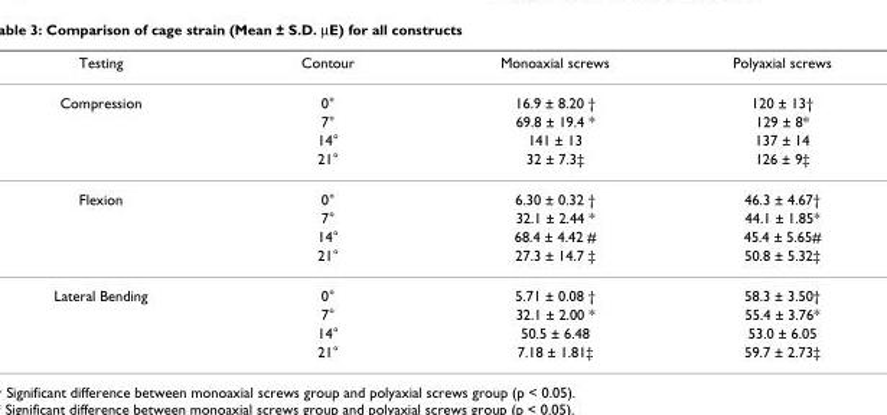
<table><thead><tr><td>Testing</td><td>Contour</td><td>Monoaxial screws</td><td>Polyaxial screws</td></tr></thead><tbody><tr><td rowspan="4">Compression</td><td>0°</td><td>16.9 ± 8.20 †</td><td>120 ± 13†</td></tr><tr><td>7°</td><td>69.8 ± 19.4 *</td><td>129 ± 8*</td></tr><tr><td>14°</td><td>141 ± 13</td><td>137 ± 14</td></tr><tr><td>21°</td><td>32 ± 7.3‡</td><td>126 ± 9‡</td></tr><tr><td rowspan="4">Flexion</td><td>0°</td><td>6.30 ± 0.32 †</td><td>46.3 ± 4.67†</td></tr><tr><td>7°</td><td>32.1 ± 2.44 *</td><td>44.1 ± 1.85*</td></tr><tr><td>14°</td><td>68.4 ± 4.42 #</td><td>45.4 ± 5.65#</td></tr><tr><td>21°</td><td>27.3 ± 14.7 ‡</td><td>50.8 ± 5.32‡</td></tr><tr><td rowspan="4">Lateral Bending</td><td>0°</td><td>5.71 ± 0.08 †</td><td>58.3 ± 3.50†</td></tr><tr><td>7°</td><td>32.1 ± 2.00 *</td><td>55.4 ± 3.76*</td></tr><tr><td>14°</td><td>50.5 ± 6.48</td><td>53.0 ± 6.05</td></tr><tr><td>21°</td><td>7.18 ± 1.81‡</td><td>59.7 ± 2.73‡</td></tr></tbody></table>